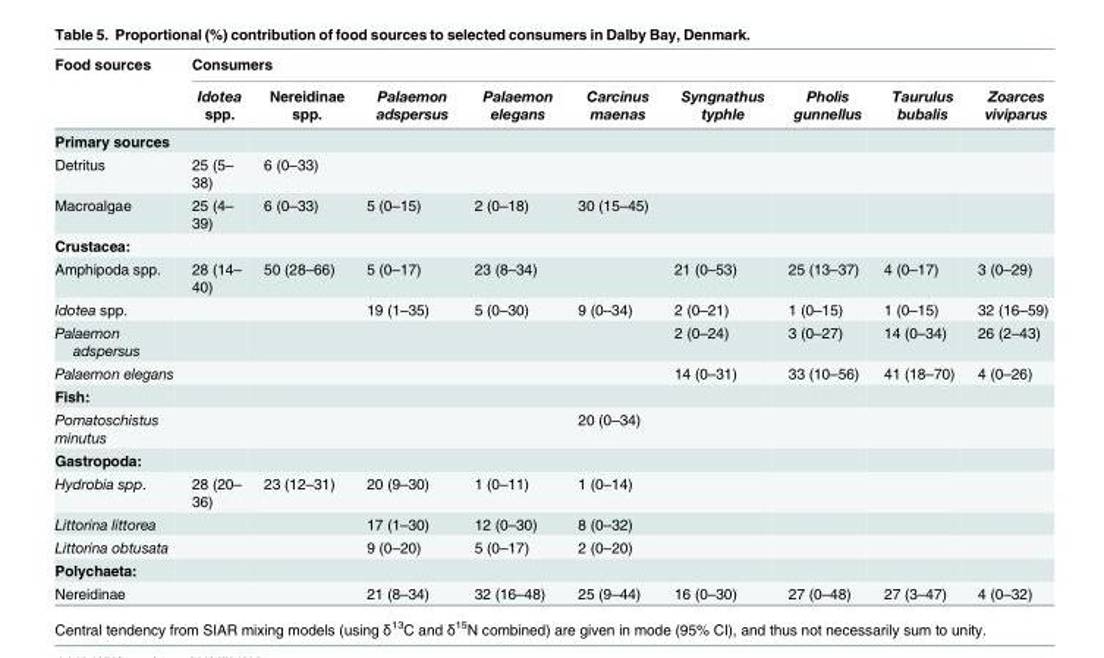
<table><thead><tr><td rowspan="2">Food sources</td><td colspan="9">Consumers</td></tr><tr><td>Idotea spp.</td><td>Nereidinae spp.</td><td>Palaemon adspersus</td><td>Palaemon elegans</td><td>Carcinus maenas</td><td>Syngnathus typhle</td><td>Pholis gunnellus</td><td>Taurulus bubalis</td><td>Zoarces viviparus</td></tr></thead><tbody><tr><td colspan="10">Primary sources</td></tr><tr><td>Detritus</td><td>25 (5– 38)</td><td>6 (0–33)</td><td></td><td></td><td></td><td></td><td></td><td></td><td></td></tr><tr><td>Macroalgae</td><td>25 (4– 39)</td><td>6 (0–33)</td><td>5 (0–15)</td><td>2 (0–18)</td><td>30 (15–45)</td><td></td><td></td><td></td><td></td></tr><tr><td colspan="10">Crustacea:</td></tr><tr><td>Amphipoda spp.</td><td>28 (14– 40)</td><td>50 (28–66)</td><td>5 (0–17)</td><td>23 (8–34)</td><td></td><td>21 (0–53)</td><td>25 (13–37)</td><td>4 (0–17)</td><td>3 (0–29)</td></tr><tr><td>Idotea spp.</td><td></td><td></td><td>19 (1–35)</td><td>5 (0–30)</td><td>9 (0–34)</td><td>2 (0–21)</td><td>1 (0–15)</td><td>1 (0–15)</td><td>32 (16–59)</td></tr><tr><td>Palaemon adspersus</td><td></td><td></td><td></td><td></td><td></td><td>2 (0–24)</td><td>3 (0–27)</td><td>14 (0–34)</td><td>26 (2–43)</td></tr><tr><td>Palaemon elegans</td><td></td><td></td><td></td><td></td><td></td><td>14 (0–31)</td><td>33 (10–56)</td><td>41 (18–70)</td><td>4 (0–26)</td></tr><tr><td colspan="10">Fish:</td></tr><tr><td>Pomatoschistus minutus</td><td></td><td></td><td></td><td></td><td>20 (0–34)</td><td></td><td></td><td></td><td></td></tr><tr><td colspan="10">Gastropoda:</td></tr><tr><td>Hydrobia spp.</td><td>28 (20– 36)</td><td>23 (12–31)</td><td>20 (9–30)</td><td>1 (0–11)</td><td>1 (0–14)</td><td></td><td></td><td></td><td></td></tr><tr><td>Littorina littorea</td><td></td><td></td><td>17 (1–30)</td><td>12 (0–30)</td><td>8 (0–32)</td><td></td><td></td><td></td><td></td></tr><tr><td>Littorina obtusata</td><td></td><td></td><td>9 (0–20)</td><td>5 (0–17)</td><td>2 (0–20)</td><td></td><td></td><td></td><td></td></tr><tr><td colspan="10">Polychaeta:</td></tr><tr><td>Nereidinae</td><td></td><td></td><td>21 (8–34)</td><td>32 (16–48)</td><td>25 (9–44)</td><td>16 (0–30)</td><td>27 (0–48)</td><td>27 (3–47)</td><td>4 (0–32)</td></tr></tbody></table>